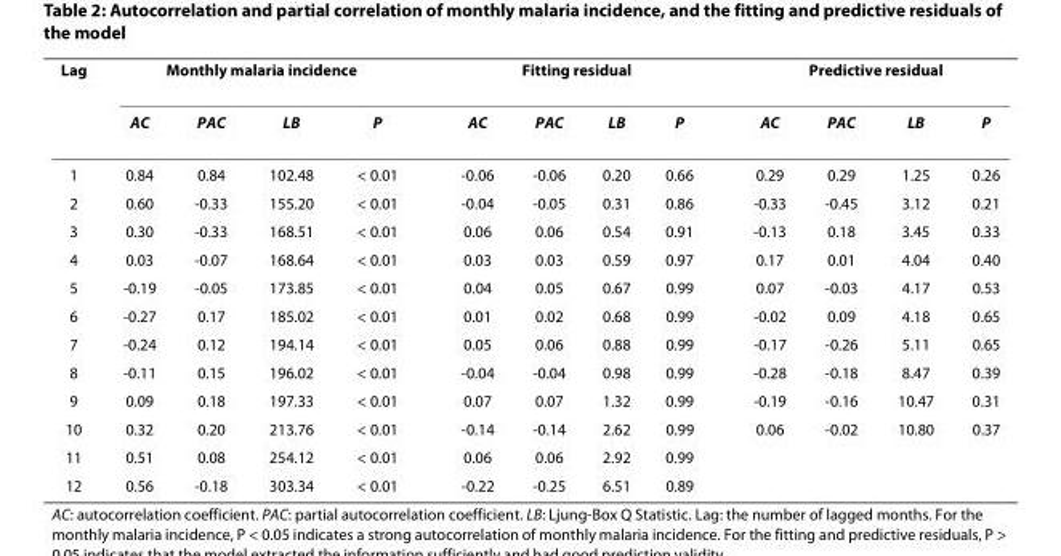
<table><thead><tr><td rowspan="2">Lag</td><td colspan="4">Monthly malaria incidence</td><td colspan="4">Fitting residual</td><td colspan="4">Predictive residual</td></tr><tr><td>AC</td><td>PAC</td><td>LB</td><td>P</td><td>AC</td><td>PAC</td><td>LB</td><td>P</td><td>AC</td><td>PAC</td><td>LB</td><td>P</td></tr></thead><tbody><tr><td>1</td><td>0.84</td><td>0.84</td><td>102.48</td><td>&lt; 0.01</td><td>-0.06</td><td>-0.06</td><td>0.20</td><td>0.66</td><td>0.29</td><td>0.29</td><td>1.25</td><td>0.26</td></tr><tr><td>2</td><td>0.60</td><td>-0.33</td><td>155.20</td><td>&lt; 0.01</td><td>-0.04</td><td>-0.05</td><td>0.31</td><td>0.86</td><td>-0.33</td><td>-0.45</td><td>3.12</td><td>0.21</td></tr><tr><td>3</td><td>0.30</td><td>-0.33</td><td>168.51</td><td>&lt; 0.01</td><td>0.06</td><td>0.06</td><td>0.54</td><td>0.91</td><td>-0.13</td><td>0.18</td><td>3.45</td><td>0.33</td></tr><tr><td>4</td><td>0.03</td><td>-0.07</td><td>168.64</td><td>&lt; 0.01</td><td>0.03</td><td>0.03</td><td>0.59</td><td>0.97</td><td>0.17</td><td>0.01</td><td>4.04</td><td>0.40</td></tr><tr><td>5</td><td>-0.19</td><td>-0.05</td><td>173.85</td><td>&lt; 0.01</td><td>0.04</td><td>0.05</td><td>0.67</td><td>0.99</td><td>0.07</td><td>-0.03</td><td>4.17</td><td>0.53</td></tr><tr><td>6</td><td>-0.27</td><td>0.17</td><td>185.02</td><td>&lt; 0.01</td><td>0.01</td><td>0.02</td><td>0.68</td><td>0.99</td><td>-0.02</td><td>0.09</td><td>4.18</td><td>0.65</td></tr><tr><td>7</td><td>-0.24</td><td>0.12</td><td>194.14</td><td>&lt; 0.01</td><td>0.05</td><td>0.06</td><td>0.88</td><td>0.99</td><td>-0.17</td><td>-0.26</td><td>5.11</td><td>0.65</td></tr><tr><td>8</td><td>-0.11</td><td>0.15</td><td>196.02</td><td>&lt; 0.01</td><td>-0.04</td><td>-0.04</td><td>0.98</td><td>0.99</td><td>-0.28</td><td>-0.18</td><td>8.47</td><td>0.39</td></tr><tr><td>9</td><td>0.09</td><td>0.18</td><td>197.33</td><td>&lt; 0.01</td><td>0.07</td><td>0.07</td><td>1.32</td><td>0.99</td><td>-0.19</td><td>-0.16</td><td>10.47</td><td>0.31</td></tr><tr><td>10</td><td>0.32</td><td>0.20</td><td>213.76</td><td>&lt; 0.01</td><td>-0.14</td><td>-0.14</td><td>2.62</td><td>0.99</td><td>0.06</td><td>-0.02</td><td>10.80</td><td>0.37</td></tr><tr><td>11</td><td>0.51</td><td>0.08</td><td>254.12</td><td>&lt; 0.01</td><td>0.06</td><td>0.06</td><td>2.92</td><td>0.99</td><td></td><td></td><td></td><td></td></tr><tr><td>12</td><td>0.56</td><td>-0.18</td><td>303.34</td><td>&lt; 0.01</td><td>-0.22</td><td>-0.25</td><td>6.51</td><td>0.89</td><td></td><td></td><td></td><td></td></tr></tbody></table>